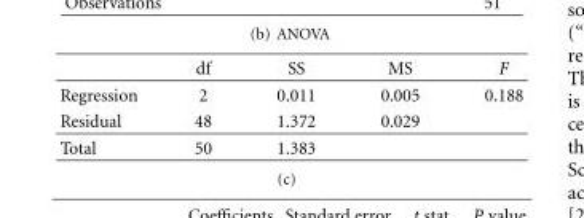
<table><thead><tr><td></td><td>df</td><td>SS</td><td>MS</td><td>F</td></tr></thead><tbody><tr><td>Regression</td><td>2</td><td>0.011</td><td>0.005</td><td>0.188</td></tr><tr><td>Residual</td><td>48</td><td>1.372</td><td>0.029</td><td></td></tr><tr><td>Total</td><td>50</td><td>1.383</td><td></td><td></td></tr></tbody></table>